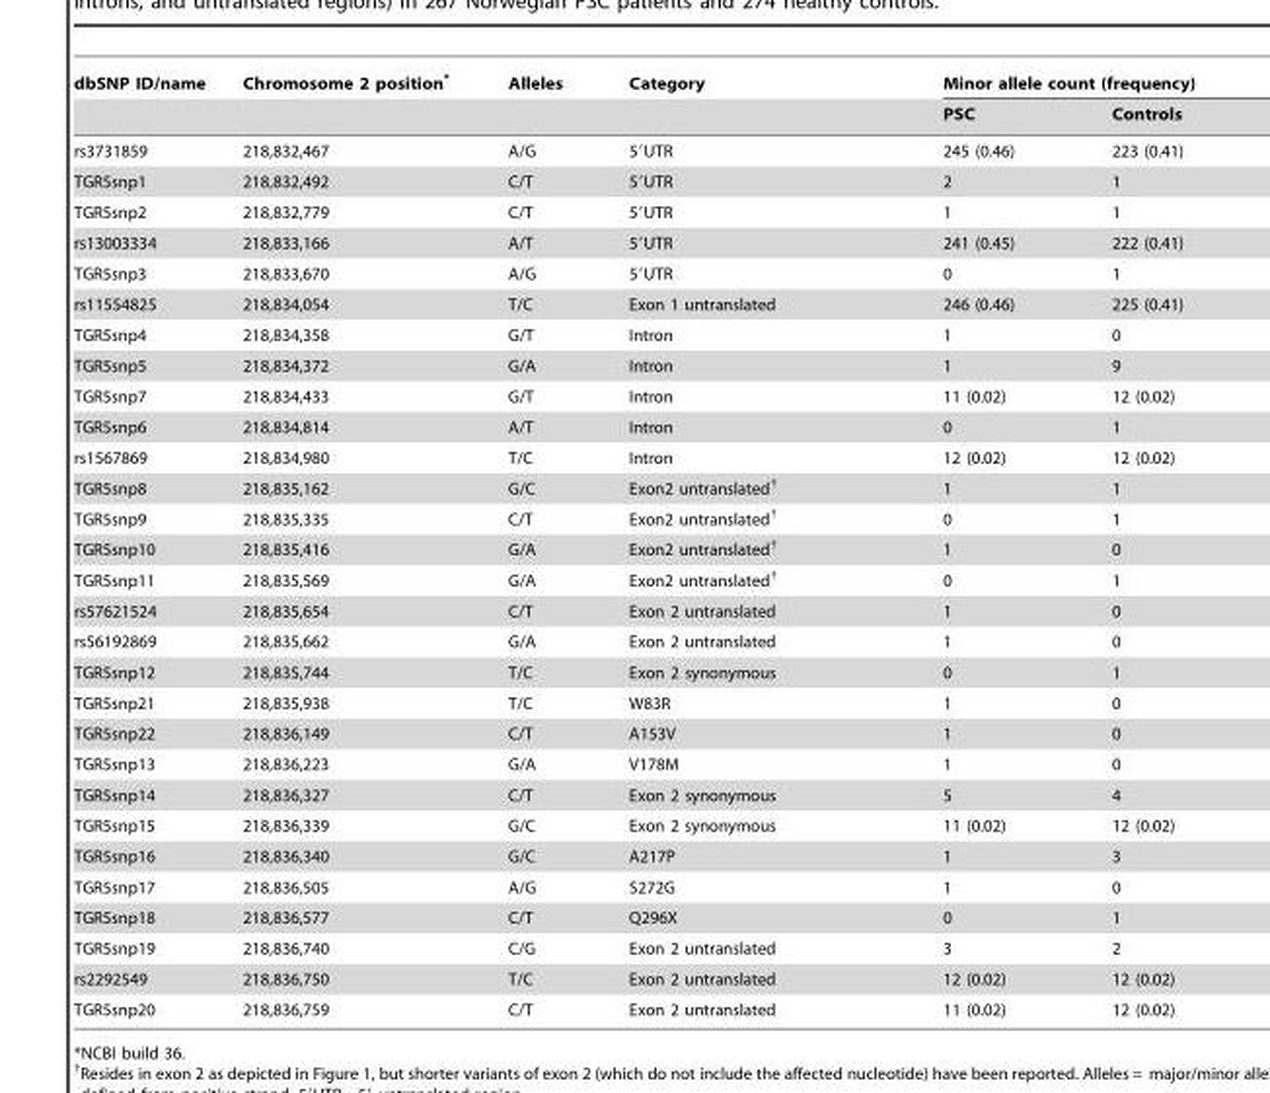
<table><thead><tr><td rowspan="2">dbSNP ID/name</td><td rowspan="2">Chromosome 2 position*</td><td rowspan="2">Alleles</td><td rowspan="2">Category</td><td colspan="2">Minor allele count (frequency)</td></tr><tr><td>PSC</td><td>Controls</td></tr></thead><tbody><tr><td>rs3731859</td><td>218,832,467</td><td>A/G</td><td>5′UTR</td><td>245 (0.46)</td><td>223 (0.41)</td></tr><tr><td>TGR5snp1</td><td>218,832,492</td><td>C/T</td><td>5′UTR</td><td>2</td><td>1</td></tr><tr><td>TGR5snp2</td><td>218,832,779</td><td>C/T</td><td>5′UTR</td><td>1</td><td>1</td></tr><tr><td>rs13003334</td><td>218,833,166</td><td>A/T</td><td>5′UTR</td><td>241 (0.45)</td><td>222 (0.41)</td></tr><tr><td>TGR5snp3</td><td>218,833,670</td><td>A/G</td><td>5′UTR</td><td>0</td><td>1</td></tr><tr><td>rs11554825</td><td>218,834,054</td><td>T/C</td><td>Exon 1 untranslated</td><td>246 (0.46)</td><td>225 (0.41)</td></tr><tr><td>TGR5snp4</td><td>218,834,358</td><td>G/T</td><td>Intron</td><td>1</td><td>0</td></tr><tr><td>TGR5snp5</td><td>218,834,372</td><td>G/A</td><td>Intron</td><td>1</td><td>9</td></tr><tr><td>TGR5snp7</td><td>218,834,433</td><td>G/T</td><td>Intron</td><td>11 (0.02)</td><td>12 (0.02)</td></tr><tr><td>TGR5snp6</td><td>218,834,814</td><td>A/T</td><td>Intron</td><td>0</td><td>1</td></tr><tr><td>rs1567869</td><td>218,834,980</td><td>T/C</td><td>Intron</td><td>12 (0.02)</td><td>12 (0.02)</td></tr><tr><td>TGR5snp8</td><td>218,835,162</td><td>G/C</td><td>Exon2 untranslated†</td><td>1</td><td>1</td></tr><tr><td>TGR5snp9</td><td>218,835,335</td><td>C/T</td><td>Exon2 untranslated†</td><td>0</td><td>1</td></tr><tr><td>TGR5snp10</td><td>218,835,416</td><td>G/A</td><td>Exon2 untranslated†</td><td>1</td><td>0</td></tr><tr><td>TGR5snp11</td><td>218,835,569</td><td>G/A</td><td>Exon2 untranslated†</td><td>0</td><td>1</td></tr><tr><td>rs57621524</td><td>218,835,654</td><td>C/T</td><td>Exon 2 untranslated</td><td>1</td><td>0</td></tr><tr><td>rs56192869</td><td>218,835,662</td><td>G/A</td><td>Exon 2 untranslated</td><td>1</td><td>0</td></tr><tr><td>TGR5snp12</td><td>218,835,744</td><td>T/C</td><td>Exon 2 synonymous</td><td>0</td><td>1</td></tr><tr><td>TGR5snp21</td><td>218,835,938</td><td>T/C</td><td>W83R</td><td>1</td><td>0</td></tr><tr><td>TGR5snp22</td><td>218,836,149</td><td>C/T</td><td>A153V</td><td>1</td><td>0</td></tr><tr><td>TGR5snp13</td><td>218,836,223</td><td>G/A</td><td>V178M</td><td>1</td><td>0</td></tr><tr><td>TGR5snp14</td><td>218,836,327</td><td>C/T</td><td>Exon 2 synonymous</td><td>5</td><td>4</td></tr><tr><td>TGR5snp15</td><td>218,836,339</td><td>G/C</td><td>Exon 2 synonymous</td><td>11 (0.02)</td><td>12 (0.02)</td></tr><tr><td>TGR5snp16</td><td>218,836,340</td><td>G/C</td><td>A217P</td><td>1</td><td>3</td></tr><tr><td>TGR5snp17</td><td>218,836,505</td><td>A/G</td><td>S272G</td><td>1</td><td>0</td></tr><tr><td>TGR5snp18</td><td>218,836,577</td><td>C/T</td><td>Q296X</td><td>0</td><td>1</td></tr><tr><td>TGR5snp19</td><td>218,836,740</td><td>C/G</td><td>Exon 2 untranslated</td><td>3</td><td>2</td></tr><tr><td>rs2292549</td><td>218,836,750</td><td>T/C</td><td>Exon 2 untranslated</td><td>12 (0.02)</td><td>12 (0.02)</td></tr><tr><td>TGR5snp20</td><td>218,836,759</td><td>C/T</td><td>Exon 2 untranslated</td><td>11 (0.02)</td><td>12 (0.02)</td></tr></tbody></table>